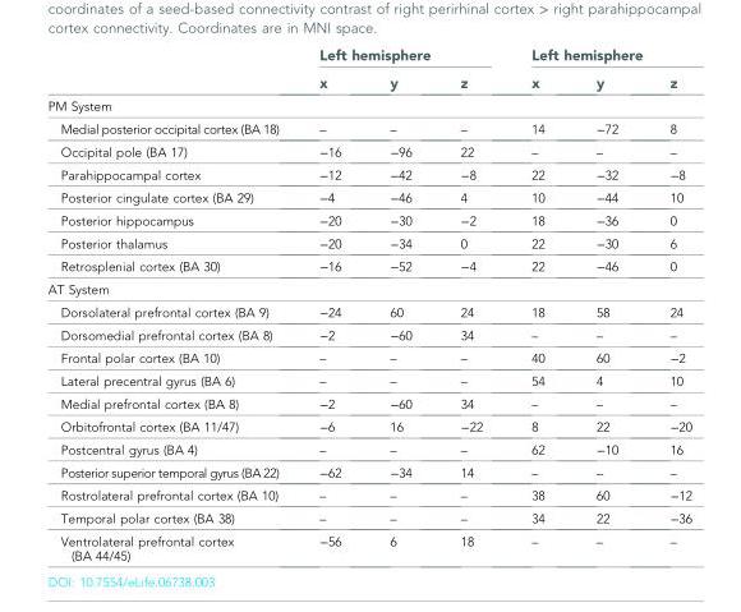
<table><thead><tr><td rowspan="2"></td><td colspan="3">Left hemisphere</td><td colspan="3">Left hemisphere</td></tr><tr><td>x</td><td>y</td><td>z</td><td>x</td><td>y</td><td>z</td></tr></thead><tbody><tr><td colspan="7">PM System</td></tr><tr><td>Medial posterior occipital cortex (BA 18)</td><td>–</td><td>–</td><td>–</td><td>14</td><td>−72</td><td>8</td></tr><tr><td>Occipital pole (BA 17)</td><td>−16</td><td>−96</td><td>22</td><td>–</td><td>–</td><td>–</td></tr><tr><td>Parahippocampal cortex</td><td>−12</td><td>−42</td><td>−8</td><td>22</td><td>−32</td><td>−8</td></tr><tr><td>Posterior cingulate cortex (BA 29)</td><td>−4</td><td>−46</td><td>4</td><td>10</td><td>−44</td><td>10</td></tr><tr><td>Posterior hippocampus</td><td>−20</td><td>−30</td><td>−2</td><td>18</td><td>−36</td><td>0</td></tr><tr><td>Posterior thalamus</td><td>−20</td><td>−34</td><td>0</td><td>22</td><td>−30</td><td>6</td></tr><tr><td>Retrosplenial cortex (BA 30)</td><td>−16</td><td>−52</td><td>−4</td><td>22</td><td>−46</td><td>0</td></tr><tr><td colspan="7">AT System</td></tr><tr><td>Dorsolateral prefrontal cortex (BA 9)</td><td>−24</td><td>60</td><td>24</td><td>18</td><td>58</td><td>24</td></tr><tr><td>Dorsomedial prefrontal cortex (BA 8)</td><td>−2</td><td>−60</td><td>34</td><td>–</td><td>–</td><td>–</td></tr><tr><td>Frontal polar cortex (BA 10)</td><td>–</td><td>–</td><td>–</td><td>40</td><td>60</td><td>−2</td></tr><tr><td>Lateral precentral gyrus (BA 6)</td><td>–</td><td>–</td><td>–</td><td>54</td><td>4</td><td>10</td></tr><tr><td>Medial prefrontal cortex (BA 8)</td><td>−2</td><td>−60</td><td>34</td><td>–</td><td>–</td><td>–</td></tr><tr><td>Orbitofrontal cortex (BA 11/47)</td><td>−6</td><td>16</td><td>−22</td><td>8</td><td>22</td><td>−20</td></tr><tr><td>Postcentral gyrus (BA 4)</td><td>–</td><td>–</td><td>–</td><td>62</td><td>−10</td><td>16</td></tr><tr><td>Posterior superior temporal gyrus (BA 22)</td><td>−62</td><td>−34</td><td>14</td><td>–</td><td>–</td><td>–</td></tr><tr><td>Rostrolateral prefrontal cortex (BA 10)</td><td>–</td><td>–</td><td>–</td><td>38</td><td>60</td><td>−12</td></tr><tr><td>Temporal polar cortex (BA 38)</td><td>–</td><td>–</td><td>–</td><td>34</td><td>22</td><td>−36</td></tr><tr><td>Ventrolateral prefrontal cortex (BA 44/45)</td><td>−56</td><td>6</td><td>18</td><td>–</td><td>–</td><td>–</td></tr></tbody></table>